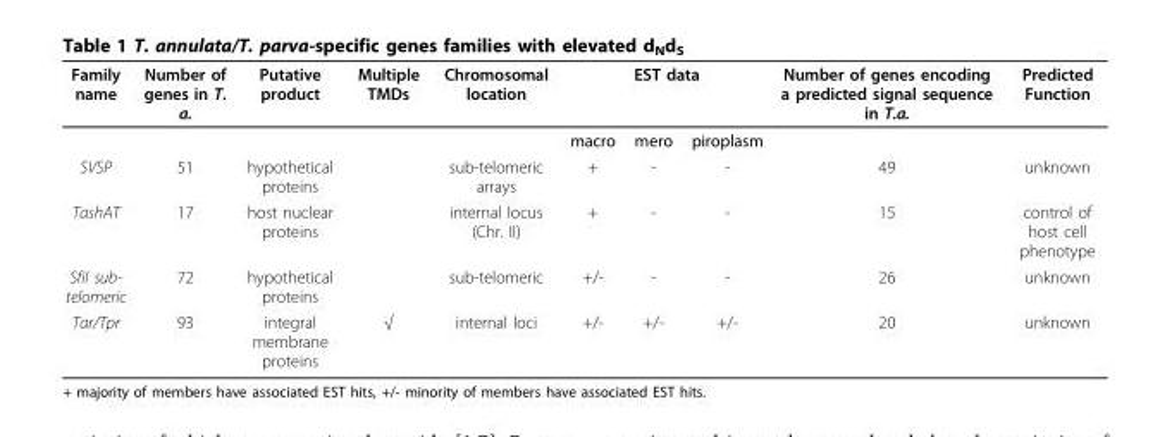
<table><thead><tr><td rowspan="2">Family name</td><td rowspan="2">Number of genes in T. a.</td><td rowspan="2">Putative product</td><td rowspan="2">Multiple TMDs</td><td rowspan="2">Chromosomal location</td><td colspan="3">EST data</td><td rowspan="2">Number of genes encoding a predicted signal sequence in T.a.</td><td rowspan="2">Predicted Function</td></tr><tr><td>macro</td><td>mero</td><td>piroplasm</td></tr></thead><tbody><tr><td>SVSP</td><td>51</td><td>hypothetical proteins</td><td></td><td>sub-telomeric arrays</td><td>+</td><td>-</td><td>-</td><td>49</td><td>unknown</td></tr><tr><td>TashAT</td><td>17</td><td>host nuclear proteins</td><td></td><td>internal locus (Chr. II)</td><td>+</td><td>-</td><td>-</td><td>15</td><td>control of host cell phenotype</td></tr><tr><td>SfiI sub- telomeric</td><td>72</td><td>hypothetical proteins</td><td></td><td>sub-telomeric</td><td>+/-</td><td>-</td><td>-</td><td>26</td><td>unknown</td></tr><tr><td>Tar/Tpr</td><td>93</td><td>integral membrane proteins</td><td>√</td><td>internal loci</td><td>+/-</td><td>+/-</td><td>+/-</td><td>20</td><td>unknown</td></tr></tbody></table>